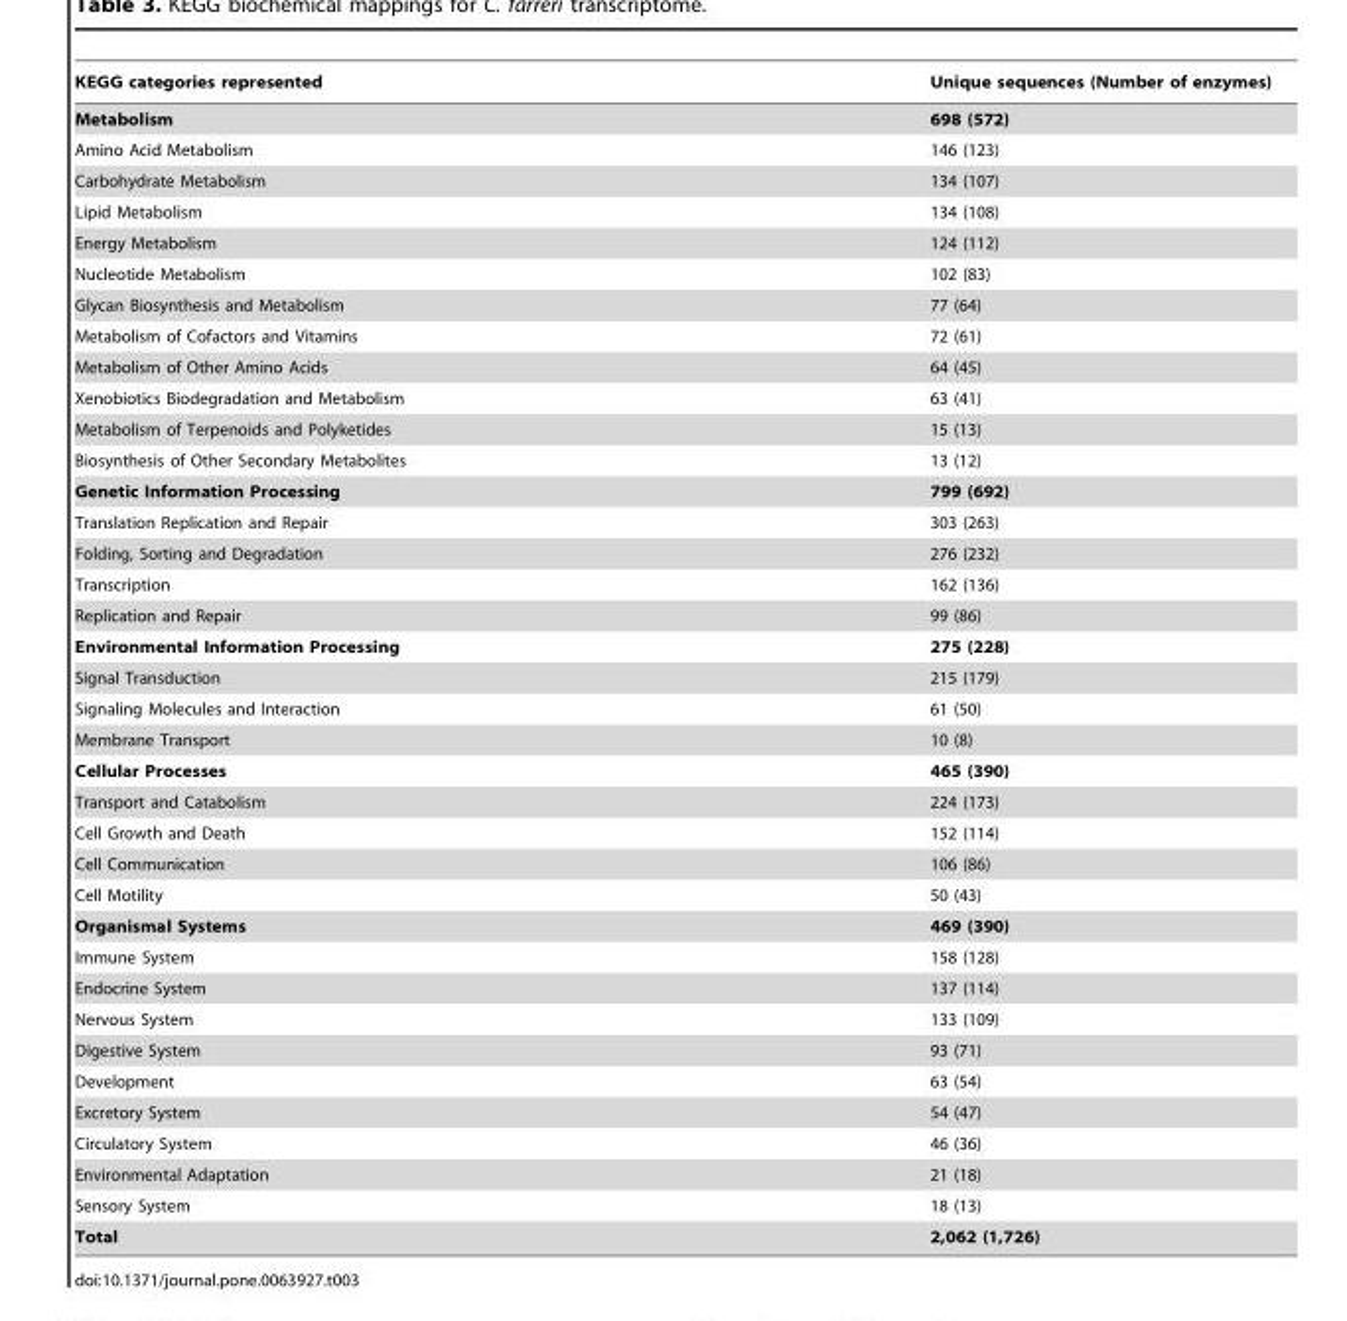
<table><thead><tr><td>KEGG categories represented</td><td>Unique sequences (Number of enzymes)</td></tr></thead><tbody><tr><td>Metabolism</td><td>698 (572)</td></tr><tr><td>Amino Acid Metabolism</td><td>146 (123)</td></tr><tr><td>Carbohydrate Metabolism</td><td>134 (107)</td></tr><tr><td>Lipid Metabolism</td><td>134 (108)</td></tr><tr><td>Energy Metabolism</td><td>124 (112)</td></tr><tr><td>Nucleotide Metabolism</td><td>102 (83)</td></tr><tr><td>Glycan Biosynthesis and Metabolism</td><td>77 (64)</td></tr><tr><td>Metabolism of Cofactors and Vitamins</td><td>72 (61)</td></tr><tr><td>Metabolism of Other Amino Acids</td><td>64 (45)</td></tr><tr><td>Xenobiotics Biodegradation and Metabolism</td><td>63 (41)</td></tr><tr><td>Metabolism of Terpenoids and Polyketides</td><td>15 (13)</td></tr><tr><td>Biosynthesis of Other Secondary Metabolites</td><td>13 (12)</td></tr><tr><td>Genetic Information Processing</td><td>799 (692)</td></tr><tr><td>Translation Replication and Repair</td><td>303 (263)</td></tr><tr><td>Folding, Sorting and Degradation</td><td>276 (232)</td></tr><tr><td>Transcription</td><td>162 (136)</td></tr><tr><td>Replication and Repair</td><td>99 (86)</td></tr><tr><td>Environmental Information Processing</td><td>275 (228)</td></tr><tr><td>Signal Transduction</td><td>215 (179)</td></tr><tr><td>Signaling Molecules and Interaction</td><td>61 (50)</td></tr><tr><td>Membrane Transport</td><td>10 (8)</td></tr><tr><td>Cellular Processes</td><td>465 (390)</td></tr><tr><td>Transport and Catabolism</td><td>224 (173)</td></tr><tr><td>Cell Growth and Death</td><td>152 (114)</td></tr><tr><td>Cell Communication</td><td>106 (86)</td></tr><tr><td>Cell Motility</td><td>50 (43)</td></tr><tr><td>Organismal Systems</td><td>469 (390)</td></tr><tr><td>Immune System</td><td>158 (128)</td></tr><tr><td>Endocrine System</td><td>137 (114)</td></tr><tr><td>Nervous System</td><td>133 (109)</td></tr><tr><td>Digestive System</td><td>93 (71)</td></tr><tr><td>Development</td><td>63 (54)</td></tr><tr><td>Excretory System</td><td>54 (47)</td></tr><tr><td>Circulatory System</td><td>46 (36)</td></tr><tr><td>Environmental Adaptation</td><td>21 (18)</td></tr><tr><td>Sensory System</td><td>18 (13)</td></tr><tr><td>Total</td><td>2,062 (1,726)</td></tr></tbody></table>